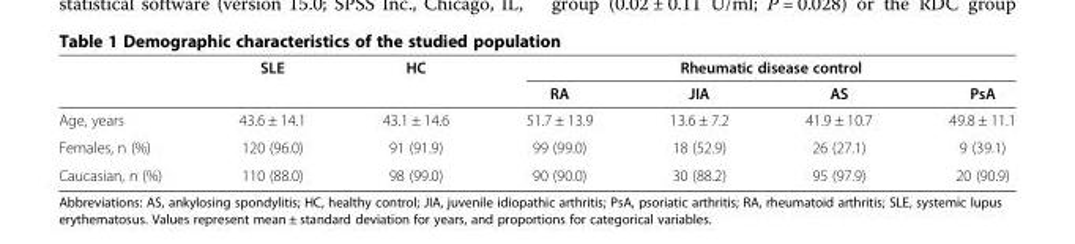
<table><thead><tr><td rowspan="2"></td><td rowspan="2">SLE</td><td rowspan="2">HC</td><td colspan="4">Rheumatic disease control</td></tr><tr><td>RA</td><td>JIA</td><td>AS</td><td>PsA</td></tr></thead><tbody><tr><td>Age, years</td><td>43.6 ± 14.1</td><td>43.1 ± 14.6</td><td>51.7 ± 13.9</td><td>13.6 ± 7.2</td><td>41.9 ± 10.7</td><td>49.8 ± 11.1</td></tr><tr><td>Females, n (%)</td><td>120 (96.0)</td><td>91 (91.9)</td><td>99 (99.0)</td><td>18 (52.9)</td><td>26 (27.1)</td><td>9 (39.1)</td></tr><tr><td>Caucasian, n (%)</td><td>110 (88.0)</td><td>98 (99.0)</td><td>90 (90.0)</td><td>30 (88.2)</td><td>95 (97.9)</td><td>20 (90.9)</td></tr></tbody></table>